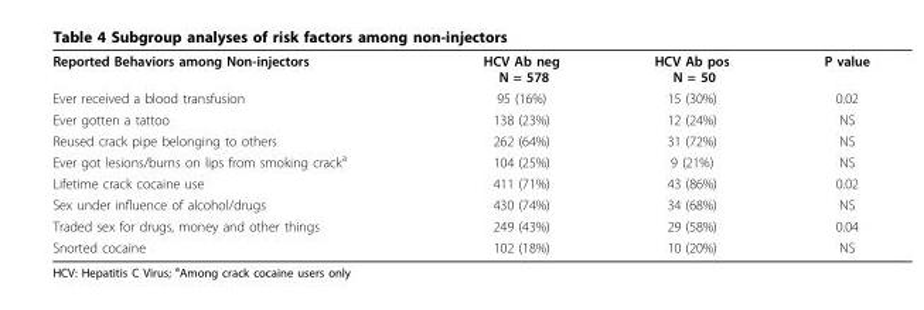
<table><tbody><tr><td>Reported Behaviors among Non-injectors</td><td>HCV Ab neg N = 578</td><td>HCV Ab pos N = 50</td><td>P value</td></tr><tr><td>Ever received a blood transfusion</td><td>95 (16%)</td><td>15 (30%)</td><td>0.02</td></tr><tr><td>Ever gotten a tattoo</td><td>138 (23%)</td><td>12 (24%)</td><td>NS</td></tr><tr><td>Reused crack pipe belonging to others</td><td>262 (64%)</td><td>31 (72%)</td><td>NS</td></tr><tr><td>Ever got lesions/burns on lips from smoking crack<sup>a</sup></td><td>104 (25%)</td><td>9 (21%)</td><td>NS</td></tr><tr><td>Lifetime crack cocaine use</td><td>411 (71%)</td><td>43 (86%)</td><td>0.02</td></tr><tr><td>Sex under influence of alcohol/drugs</td><td>430 (74%)</td><td>34 (68%)</td><td>NS</td></tr><tr><td>Traded sex for drugs, money and other things</td><td>249 (43%)</td><td>29 (58%)</td><td>0.04</td></tr><tr><td>Snorted cocaine</td><td>102 (18%)</td><td>10 (20%)</td><td>NS</td></tr></tbody></table>